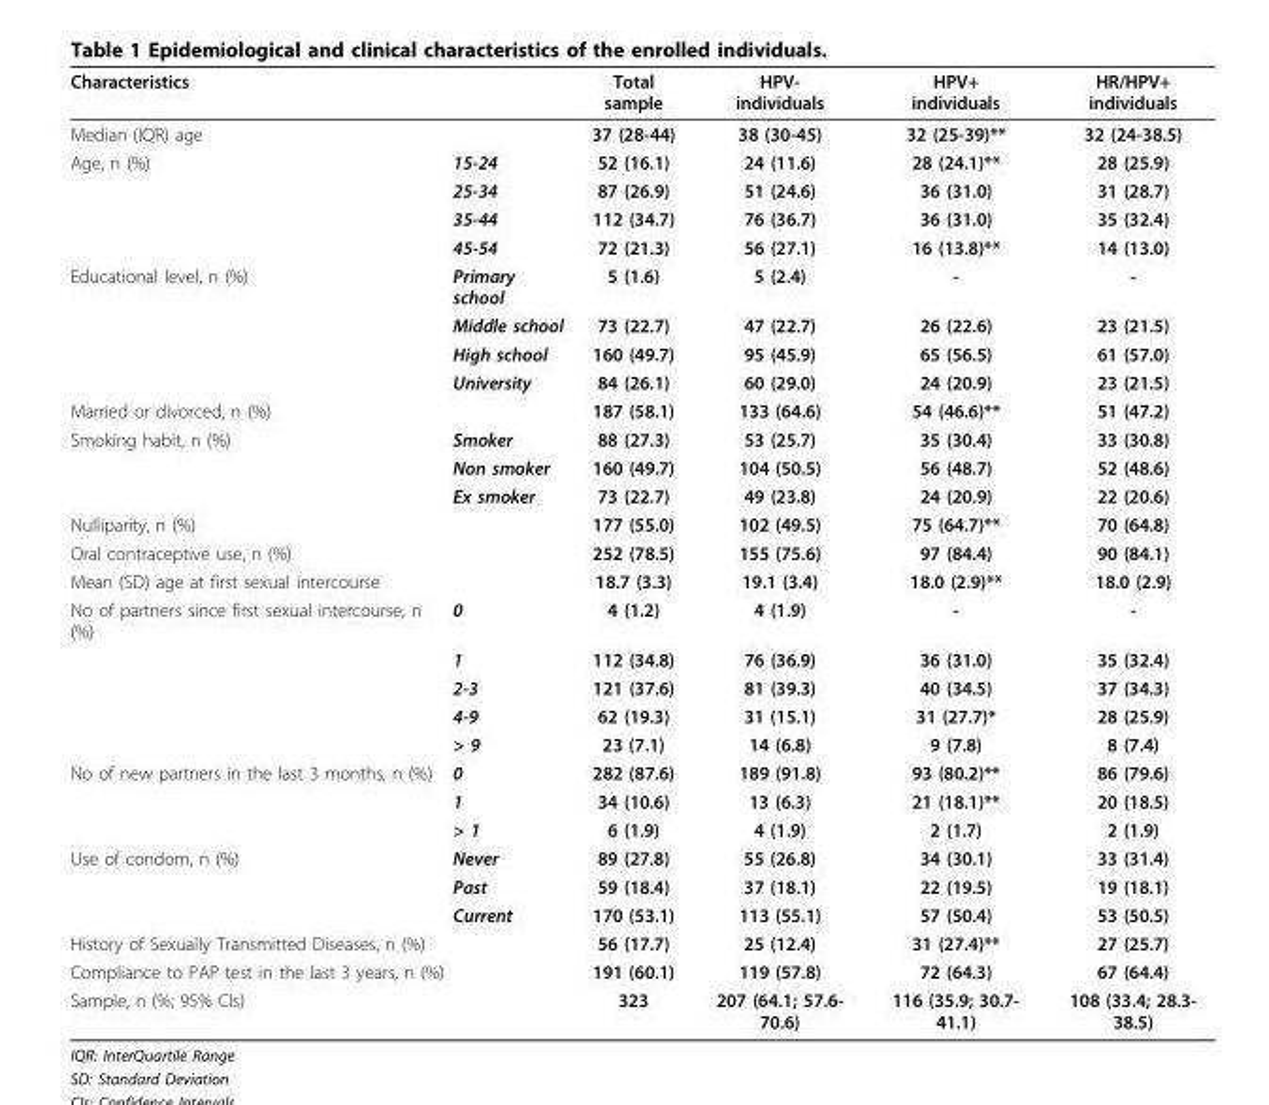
<table><thead><tr><td rowspan="2" colspan="2">Characteristics Median (IQR) age</td><td rowspan="3">Total sample 37 (28-44) 52 (16.1)</td><td rowspan="3">HPV- individuals 38 (30-45) 24 (11.6)</td><td rowspan="3">HPV+ individuals 32 (25-39)** 28 (24.1)**</td><td rowspan="3">HR/HPV+ individuals 32 (24-38.5) 28 (25.9)</td></tr><tr></tr><tr><td>Age, n (%)</td><td>15-24</td></tr></thead><tbody><tr><td></td><td>25-34</td><td>87 (26.9)</td><td>51 (24.6)</td><td>36 (31.0)</td><td>31 (28.7)</td></tr><tr><td></td><td>35-44</td><td>112 (34.7)</td><td>76 (36.7)</td><td>36 (31.0)</td><td>35 (32.4)</td></tr><tr><td></td><td>45-54</td><td>72 (21.3)</td><td>56 (27.1)</td><td>16 (13.8)**</td><td>14 (13.0)</td></tr><tr><td rowspan="4">Educational level, n (%)</td><td>Primary school</td><td>5 (1.6)</td><td>5 (2.4)</td><td>-</td><td>-</td></tr><tr><td>Middle school</td><td>73 (22.7)</td><td>47 (22.7)</td><td>26 (22.6)</td><td>23 (21.5)</td></tr><tr><td>High school</td><td>160 (49.7)</td><td>95 (45.9)</td><td>65 (56.5)</td><td>61 (57.0)</td></tr><tr><td>University</td><td>84 (26.1)</td><td>60 (29.0)</td><td>24 (20.9)</td><td>23 (21.5)</td></tr><tr><td colspan="2">Married or divorced, n (%)</td><td>187 (58.1)</td><td>133 (64.6)</td><td>54 (46.6)**</td><td>51 (47.2)</td></tr><tr><td rowspan="3">Smoking habit, n (%)</td><td>Smoker</td><td>88 (27.3)</td><td>53 (25.7)</td><td>35 (30.4)</td><td>33 (30.8)</td></tr><tr><td>Non smoker</td><td>160 (49.7)</td><td>104 (50.5)</td><td>56 (48.7)</td><td>52 (48.6)</td></tr><tr><td>Ex smoker</td><td>73 (22.7)</td><td>49 (23.8)</td><td>24 (20.9)</td><td>22 (20.6)</td></tr><tr><td colspan="2">Nulliparity, n (%)</td><td>177 (55.0)</td><td>102 (49.5)</td><td>75 (64.7)**</td><td>70 (64.8)</td></tr><tr><td colspan="2">Oral contraceptive use, n (%)</td><td>252 (78.5)</td><td>155 (75.6)</td><td>97 (84.4)</td><td>90 (84.1)</td></tr><tr><td colspan="2">Mean (SD) age at first sexual intercourse</td><td>18.7 (3.3)</td><td>19.1 (3.4)</td><td>18.0 (2.9)**</td><td>18.0 (2.9)</td></tr><tr><td rowspan="5">No of partners since first sexual intercourse, n (%)</td><td>0</td><td>4 (1.2)</td><td>4 (1.9)</td><td>-</td><td>-</td></tr><tr><td>1</td><td>112 (34.8)</td><td>76 (36.9)</td><td>36 (31.0)</td><td>35 (32.4)</td></tr><tr><td>2-3</td><td>121 (37.6)</td><td>81 (39.3)</td><td>40 (34.5)</td><td>37 (34.3)</td></tr><tr><td>4-9</td><td>62 (19.3)</td><td>31 (15.1)</td><td>31 (27.7)*</td><td>28 (25.9)</td></tr><tr><td>&gt; 9</td><td>23 (7.1)</td><td>14 (6.8)</td><td>9 (7.8)</td><td>8 (7.4)</td></tr><tr><td rowspan="3">No of new partners in the last 3 months, n (%)</td><td>0</td><td>282 (87.6)</td><td>189 (91.8)</td><td>93 (80.2)**</td><td>86 (79.6)</td></tr><tr><td>1</td><td>34 (10.6)</td><td>13 (6.3)</td><td>21 (18.1)**</td><td>20 (18.5)</td></tr><tr><td>&gt; 1</td><td>6 (1.9)</td><td>4 (1.9)</td><td>2 (1.7)</td><td>2 (1.9)</td></tr><tr><td rowspan="3">Use of condom, n (%)</td><td>Never</td><td>89 (27.8)</td><td>55 (26.8)</td><td>34 (30.1)</td><td>33 (31.4)</td></tr><tr><td>Past</td><td>59 (18.4)</td><td>37 (18.1)</td><td>22 (19.5)</td><td>19 (18.1)</td></tr><tr><td>Current</td><td>170 (53.1)</td><td>113 (55.1)</td><td>57 (50.4)</td><td>53 (50.5)</td></tr><tr><td colspan="2">History of Sexually Transmitted Diseases, n (%)</td><td>56 (17.7)</td><td>25 (12.4)</td><td>31 (27.4)**</td><td>27 (25.7)</td></tr><tr><td colspan="2">Compliance to PAP test in the last 3 years, n (%)</td><td>191 (60.1)</td><td>119 (57.8)</td><td>72 (64.3)</td><td>67 (64.4)</td></tr><tr><td colspan="2">Sample, n (%; 95% CIs)</td><td>323</td><td>207 (64.1; 57.6- 70.6)</td><td>116 (35.9; 30.7- 41.1)</td><td>108 (33.4; 28.3- 38.5)</td></tr></tbody></table>